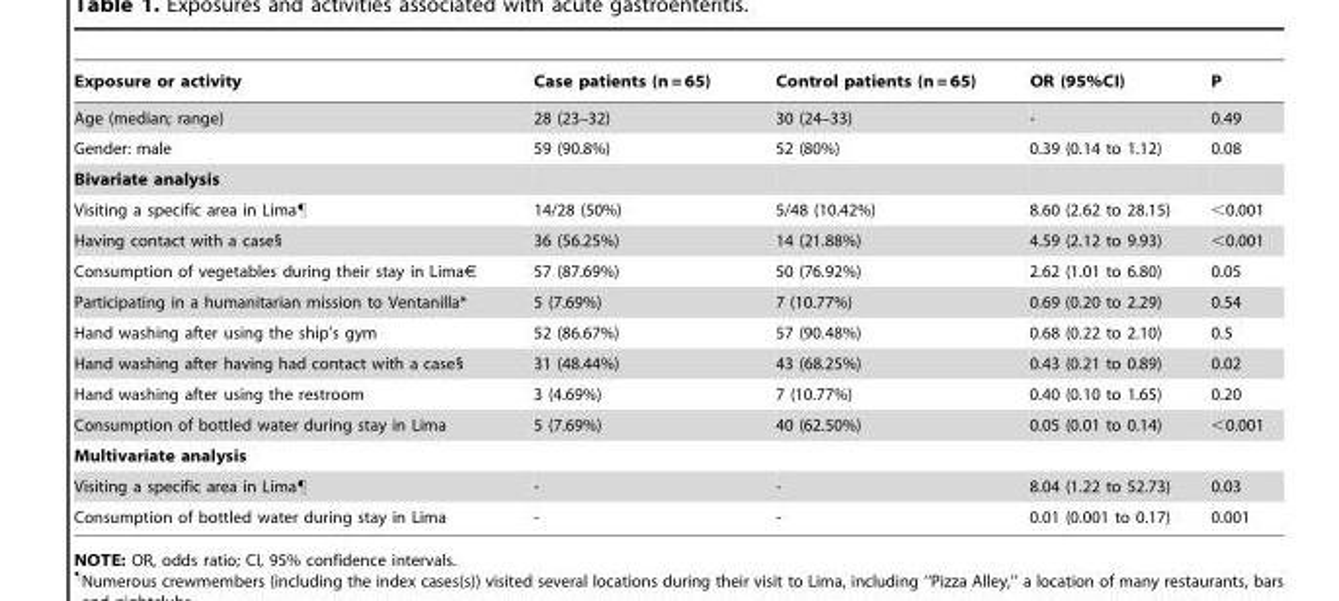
<table><thead><tr><td>Exposure or activity</td><td>Case patients (n = 65)</td><td>Control patients (n = 65)</td><td>OR (95%CI)</td><td>P</td></tr></thead><tbody><tr><td>Age (median; range)</td><td>28 (23–32)</td><td>30 (24–33)</td><td>-</td><td>0.49</td></tr><tr><td>Gender: male</td><td>59 (90.8%)</td><td>52 (80%)</td><td>0.39 (0.14 to 1.12)</td><td>0.08</td></tr><tr><td colspan="5">Bivariate analysis</td></tr><tr><td>Visiting a specific area in Lima¶</td><td>14/28 (50%)</td><td>5/48 (10.42%)</td><td>8.60 (2.62 to 28.15)</td><td>&lt;0.001</td></tr><tr><td>Having contact with a case§</td><td>36 (56.25%)</td><td>14 (21.88%)</td><td>4.59 (2.12 to 9.93)</td><td>&lt;0.001</td></tr><tr><td>Consumption of vegetables during their stay in Lima€</td><td>57 (87.69%)</td><td>50 (76.92%)</td><td>2.62 (1.01 to 6.80)</td><td>0.05</td></tr><tr><td>Participating in a humanitarian mission to Ventanilla*</td><td>5 (7.69%)</td><td>7 (10.77%)</td><td>0.69 (0.20 to 2.29)</td><td>0.54</td></tr><tr><td>Hand washing after using the ship’s gym</td><td>52 (86.67%)</td><td>57 (90.48%)</td><td>0.68 (0.22 to 2.10)</td><td>0.5</td></tr><tr><td>Hand washing after having had contact with a case§</td><td>31 (48.44%)</td><td>43 (68.25%)</td><td>0.43 (0.21 to 0.89)</td><td>0.02</td></tr><tr><td>Hand washing after using the restroom</td><td>3 (4.69%)</td><td>7 (10.77%)</td><td>0.40 (0.10 to 1.65)</td><td>0.20</td></tr><tr><td>Consumption of bottled water during stay in Lima</td><td>5 (7.69%)</td><td>40 (62.50%)</td><td>0.05 (0.01 to 0.14)</td><td>&lt;0.001</td></tr><tr><td colspan="5">Multivariate analysis</td></tr><tr><td>Visiting a specific area in Lima¶</td><td>-</td><td>-</td><td>8.04 (1.22 to 52.73)</td><td>0.03</td></tr><tr><td>Consumption of bottled water during stay in Lima</td><td>-</td><td>-</td><td>0.01 (0.001 to 0.17)</td><td>0.001</td></tr></tbody></table>